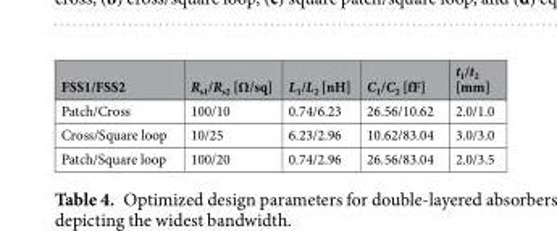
<table><thead><tr><td>FSS1/FSS2</td><td>R<sub>s1</sub>/R<sub>s2</sub> [Ω/sq]</td><td>L<sub>1</sub>/L<sub>2</sub> [nH]</td><td>C<sub>1</sub>/C<sub>2</sub> [fF]</td><td>t<sub>1</sub>/t<sub>2</sub> [mm]</td></tr></thead><tbody><tr><td>Patch/Cross</td><td>100/10</td><td>0.74/6.23</td><td>26.56/10.62</td><td>2.0/1.0</td></tr><tr><td>Cross/Square loop</td><td>10/25</td><td>6.23/2.96</td><td>10.62/83.04</td><td>3.0/3.0</td></tr><tr><td>Patch/Square loop</td><td>100/20</td><td>0.74/2.96</td><td>26.56/83.04</td><td>2.0/3.5</td></tr></tbody></table>